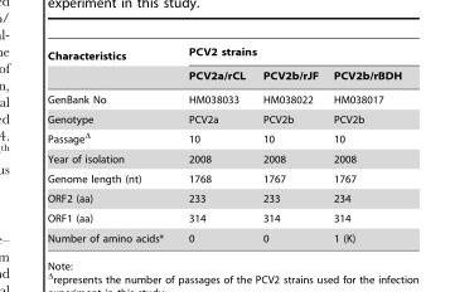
<table><thead><tr><td rowspan="2">Characteristics</td><td colspan="3">PCV2 strains</td></tr><tr><td>PCV2a/rCL</td><td>PCV2b/rJF</td><td>PCV2b/rBDH</td></tr></thead><tbody><tr><td>GenBank No</td><td>HM038033</td><td>HM038022</td><td>HM038017</td></tr><tr><td>Genotype</td><td>PCV2a</td><td>PCV2b</td><td>PCV2b</td></tr><tr><td>PassageΔ</td><td>10</td><td>10</td><td>10</td></tr><tr><td>Year of isolation</td><td>2008</td><td>2008</td><td>2008</td></tr><tr><td>Genome length (nt)</td><td>1768</td><td>1767</td><td>1767</td></tr><tr><td>ORF2 (aa)</td><td>233</td><td>233</td><td>234</td></tr><tr><td>ORF1 (aa)</td><td>314</td><td>314</td><td>314</td></tr><tr><td>Number of amino acids*</td><td>0</td><td>0</td><td>1 (K)</td></tr></tbody></table>